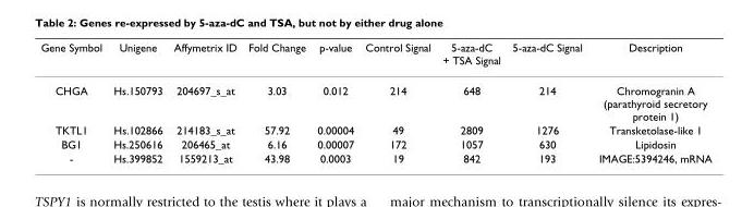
<table><thead><tr><td>Gene Symbol</td><td>Unigene</td><td>Affymetrix ID</td><td>Fold Change</td><td>p-value</td><td>Control Signal</td><td>5-aza-dC + TSA Signal</td><td>5-aza-dC Signal</td><td>Description</td></tr></thead><tbody><tr><td>CHGA</td><td>Hs.150793</td><td>204697_s_at</td><td>3.03</td><td>0.012</td><td>214</td><td>648</td><td>214</td><td>Chromogranin A (parathyroid secretory protein 1)</td></tr><tr><td>TKTL1</td><td>Hs.102866</td><td>214183_s_at</td><td>57.92</td><td>0.00004</td><td>49</td><td>2809</td><td>1276</td><td>Transketolase-like 1</td></tr><tr><td>BG1</td><td>Hs.250616</td><td>206465_at</td><td>6.16</td><td>0.00007</td><td>172</td><td>1057</td><td>630</td><td>Lipidosin</td></tr><tr><td>-</td><td>Hs.399852</td><td>1559213_at</td><td>43.98</td><td>0.0003</td><td>19</td><td>842</td><td>193</td><td>IMAGE:5394246, mRNA</td></tr></tbody></table>